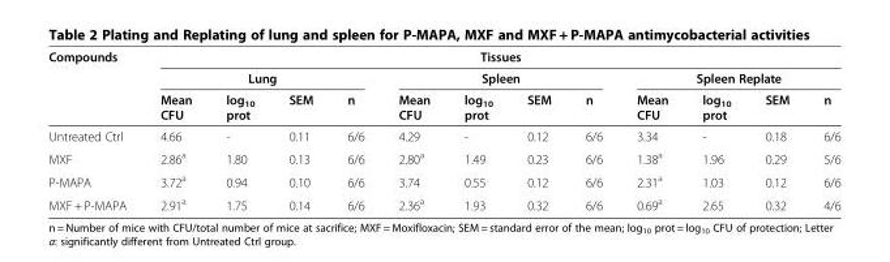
<table><thead><tr><td rowspan="3">Compounds</td><td colspan="12">Tissues</td></tr><tr><td colspan="4">Lung</td><td colspan="4">Spleen</td><td colspan="4">Spleen Replate</td></tr><tr><td>Mean CFU</td><td>log<sub>10</sub> prot</td><td>SEM</td><td>n</td><td>Mean CFU</td><td>log<sub>10</sub> prot</td><td>SEM</td><td>n</td><td>Mean CFU</td><td>log<sub>10</sub> prot</td><td>SEM</td><td>n</td></tr></thead><tbody><tr><td>Untreated Ctrl</td><td>4.66</td><td>-</td><td>0.11</td><td>6/6</td><td>4.29</td><td>-</td><td>0.12</td><td>6/6</td><td>3.34</td><td>-</td><td>0.18</td><td>6/6</td></tr><tr><td>MXF</td><td>2.86<sup>a</sup></td><td>1.80</td><td>0.13</td><td>6/6</td><td>2.80<sup>a</sup></td><td>1.49</td><td>0.23</td><td>6/6</td><td>1.38<sup>a</sup></td><td>1.96</td><td>0.29</td><td>5/6</td></tr><tr><td>P-MAPA</td><td>3.72<sup>a</sup></td><td>0.94</td><td>0.10</td><td>6/6</td><td>3.74</td><td>0.55</td><td>0.12</td><td>6/6</td><td>2.31<sup>a</sup></td><td>1.03</td><td>0.12</td><td>6/6</td></tr><tr><td>MXF + P-MAPA</td><td>2.91<sup>a</sup></td><td>1.75</td><td>0.14</td><td>6/6</td><td>2.36<sup>a</sup></td><td>1.93</td><td>0.32</td><td>6/6</td><td>0.69<sup>a</sup></td><td>2.65</td><td>0.32</td><td>4/6</td></tr></tbody></table>